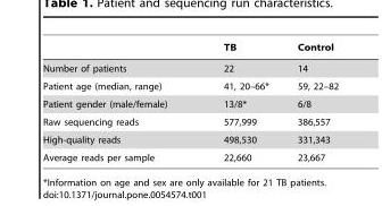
<table><thead><tr><td></td><td>TB</td><td>Control</td></tr></thead><tbody><tr><td>Number of patients</td><td>22</td><td>14</td></tr><tr><td>Patient age (median, range)</td><td>41, 20–66*</td><td>59, 22–82</td></tr><tr><td>Patient gender (male/female)</td><td>13/8*</td><td>6/8</td></tr><tr><td>Raw sequencing reads</td><td>577,999</td><td>386,557</td></tr><tr><td>High-quality reads</td><td>498,530</td><td>331,343</td></tr><tr><td>Average reads per sample</td><td>22,660</td><td>23,667</td></tr></tbody></table>